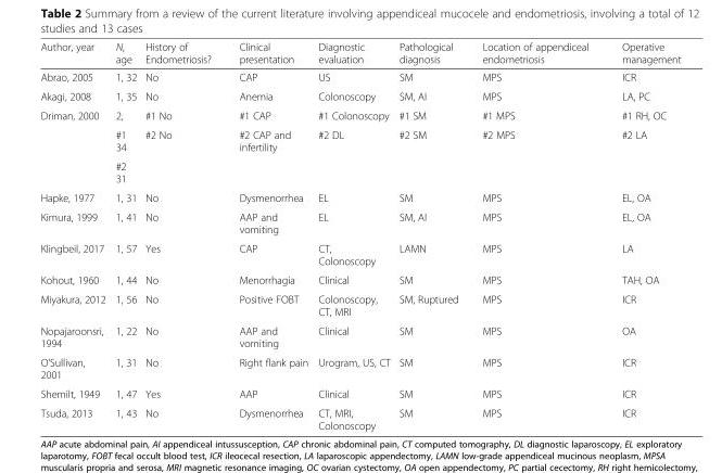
<table><thead><tr><td>Author, year</td><td>N, age</td><td>History of Endometriosis?</td><td>Clinical presentation</td><td>Diagnostic evaluation</td><td>Pathological diagnosis</td><td>Location of appendiceal endometriosis</td><td>Operative management</td></tr></thead><tbody><tr><td>Abrao, 2005</td><td>1, 32</td><td>No</td><td>CAP</td><td>US</td><td>SM</td><td>MPS</td><td>ICR</td></tr><tr><td>Akagi, 2008</td><td>1, 35</td><td>No</td><td>Anemia</td><td>Colonoscopy</td><td>SM, AI</td><td>MPS</td><td>LA, PC</td></tr><tr><td rowspan="3">Driman, 2000</td><td>2,</td><td>#1 No</td><td>#1 CAP</td><td>#1 Colonoscopy</td><td>#1 SM</td><td>#1 MPS</td><td>#1 RH, OC</td></tr><tr><td>#1 34</td><td rowspan="2">#2 No</td><td rowspan="2">#2 CAP and infertility</td><td rowspan="2">#2 DL</td><td rowspan="2">#2 SM</td><td rowspan="2">#2 MPS</td><td rowspan="2">#2 LA</td></tr><tr><td>#2 31</td></tr><tr><td>Hapke, 1977</td><td>1, 31</td><td>No</td><td>Dysmenorrhea</td><td>EL</td><td>SM</td><td>MPS</td><td>EL, OA</td></tr><tr><td>Kimura, 1999</td><td>1, 41</td><td>No</td><td>AAP and vomiting</td><td>EL</td><td>SM, AI</td><td>MPS</td><td>EL, OA</td></tr><tr><td>Klingbeil, 2017</td><td>1, 57</td><td>Yes</td><td>CAP</td><td>CT, Colonoscopy</td><td>LAMN</td><td>MPS</td><td>LA</td></tr><tr><td>Kohout, 1960</td><td>1, 44</td><td>No</td><td>Menorrhagia</td><td>Clinical</td><td>SM</td><td>MPS</td><td>TAH, OA</td></tr><tr><td>Miyakura, 2012</td><td>1, 56</td><td>No</td><td>Positive FOBT</td><td>Colonoscopy, CT, MRI</td><td>SM, Ruptured</td><td>MPS</td><td>ICR</td></tr><tr><td>Nopajaroonsri, 1994</td><td>1, 22</td><td>No</td><td>AAP and vomiting</td><td>Clinical</td><td>SM</td><td>MPS</td><td>OA</td></tr><tr><td>O’Sullivan, 2001</td><td>1, 31</td><td>No</td><td>Right flank pain</td><td>Urogram, US, CT</td><td>SM</td><td>MPS</td><td>ICR</td></tr><tr><td>Shemilt, 1949</td><td>1, 47</td><td>Yes</td><td>AAP</td><td>Clinical</td><td>SM</td><td>MPS</td><td>ICR</td></tr><tr><td>Tsuda, 2013</td><td>1, 43</td><td>No</td><td>Dysmenorrhea</td><td>CT, MRI, Colonoscopy</td><td>SM</td><td>MPS</td><td>ICR</td></tr></tbody></table>